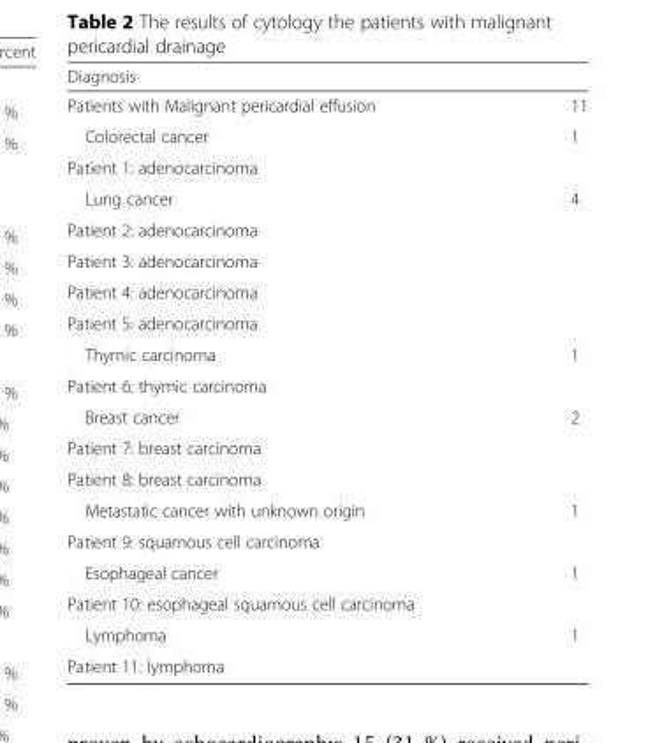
<table><thead><tr><td>Diagnosis</td><td></td></tr></thead><tbody><tr><td>Patients with Malignant pericardial effusion</td><td>11</td></tr><tr><td>Colorectal cancer</td><td>1</td></tr><tr><td colspan="2">Patient 1: adenocarcinoma</td></tr><tr><td>Lung cancer</td><td>4</td></tr><tr><td colspan="2">Patient 2: adenocarcinoma</td></tr><tr><td colspan="2">Patient 3: adenocarcinoma</td></tr><tr><td colspan="2">Patient 4: adenocarcinoma</td></tr><tr><td colspan="2">Patient 5: adenocarcinoma</td></tr><tr><td>Thymic carcinoma</td><td>1</td></tr><tr><td colspan="2">Patient 6: thymic carcinoma</td></tr><tr><td>Breast cancer</td><td>2</td></tr><tr><td colspan="2">Patient 7: breast carcinoma</td></tr><tr><td colspan="2">Patient 8: breast carcinoma</td></tr><tr><td>Metastatic cancer with unknown origin</td><td>1</td></tr><tr><td colspan="2">Patient 9: squamous cell carcinoma</td></tr><tr><td>Esophageal cancer</td><td>1</td></tr><tr><td colspan="2">Patient 10: esophageal squamous cell carcinoma</td></tr><tr><td>Lymphoma</td><td>1</td></tr><tr><td>Patient 11: lymphoma</td><td></td></tr></tbody></table>